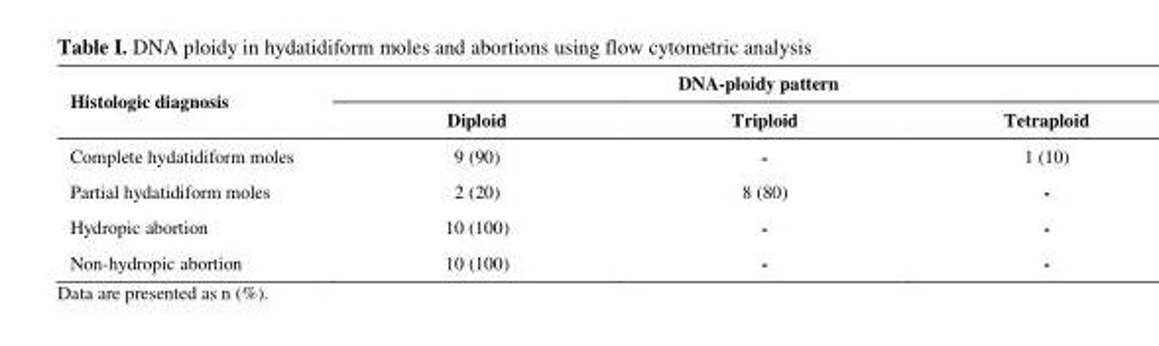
<table><thead><tr><td rowspan="2">Histologic diagnosis</td><td colspan="3">DNA-ploidy pattern</td></tr><tr><td>Diploid</td><td>Triploid</td><td>Tetraploid</td></tr></thead><tbody><tr><td>Complete hydatidiform moles</td><td>9 (90)</td><td>-</td><td>1 (10)</td></tr><tr><td>Partial hydatidiform moles</td><td>2 (20)</td><td>8 (80)</td><td>-</td></tr><tr><td>Hydropic abortion</td><td>10 (100)</td><td>-</td><td>-</td></tr><tr><td>Non-hydropic abortion</td><td>10 (100)</td><td>-</td><td>-</td></tr></tbody></table>